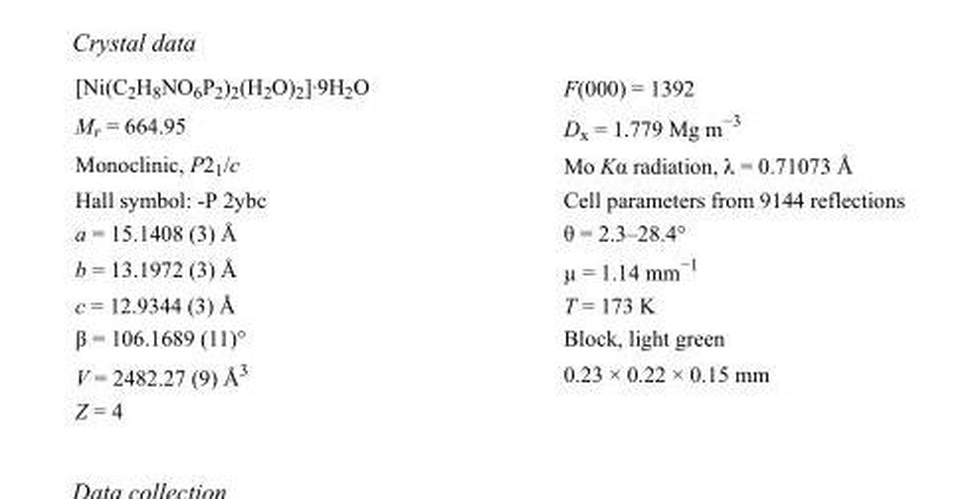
<table><tbody><tr><td>[Ni(C<sub>2</sub>H<sub>8</sub>NO<sub>6</sub>P<sub>2</sub>)<sub>2</sub>(H<sub>2</sub>O)<sub>2</sub>]·9H<sub>2</sub>O</td><td>F(000) = 1392</td></tr><tr><td>M<sub>r</sub> = 664.95</td><td>D<sub>x</sub> = 1.779 Mg m<sup>−3</sup></td></tr><tr><td>Monoclinic, P2<sub>1</sub>/c</td><td>Mo Kα radiation, λ = 0.71073 Å</td></tr><tr><td>Hall symbol: -P 2ybc</td><td>Cell parameters from 9144 reflections</td></tr><tr><td>a = 15.1408 (3) Å</td><td>θ = 2.3–28.4°</td></tr><tr><td>b = 13.1972 (3) Å</td><td>µ = 1.14 mm<sup>−1</sup></td></tr><tr><td>c = 12.9344 (3) Å</td><td>T = 173 K</td></tr><tr><td>β = 106.1689 (11)°</td><td>Block, light green</td></tr><tr><td>V = 2482.27 (9) Å<sup>3</sup></td><td>0.23 × 0.22 × 0.15 mm</td></tr><tr><td>Z = 4</td><td></td></tr></tbody></table>